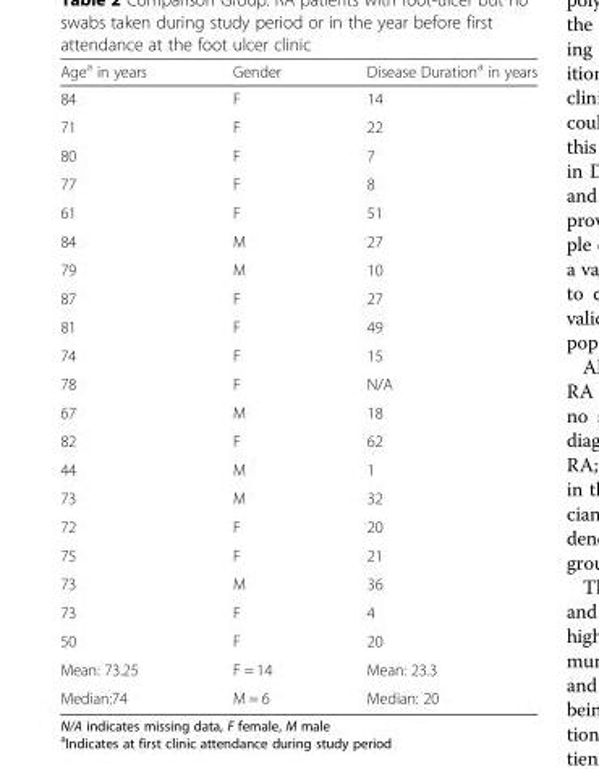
<table><thead><tr><td>Age<sup>a</sup> in years</td><td>Gender</td><td>Disease Duration<sup>a</sup> in years</td></tr></thead><tbody><tr><td>84</td><td>F</td><td>14</td></tr><tr><td>71</td><td>F</td><td>22</td></tr><tr><td>80</td><td>F</td><td>7</td></tr><tr><td>77</td><td>F</td><td>8</td></tr><tr><td>61</td><td>F</td><td>51</td></tr><tr><td>84</td><td>M</td><td>27</td></tr><tr><td>79</td><td>M</td><td>10</td></tr><tr><td>87</td><td>F</td><td>27</td></tr><tr><td>81</td><td>F</td><td>49</td></tr><tr><td>74</td><td>F</td><td>15</td></tr><tr><td>78</td><td>F</td><td>N/A</td></tr><tr><td>67</td><td>M</td><td>18</td></tr><tr><td>82</td><td>F</td><td>62</td></tr><tr><td>44</td><td>M</td><td>1</td></tr><tr><td>73</td><td>M</td><td>32</td></tr><tr><td>72</td><td>F</td><td>20</td></tr><tr><td>75</td><td>F</td><td>21</td></tr><tr><td>73</td><td>M</td><td>36</td></tr><tr><td>73</td><td>F</td><td>4</td></tr><tr><td>50</td><td>F</td><td>20</td></tr><tr><td>Mean: 73.25</td><td>F = 14</td><td>Mean: 23.3</td></tr><tr><td>Median:74</td><td>M = 6</td><td>Median: 20</td></tr></tbody></table>